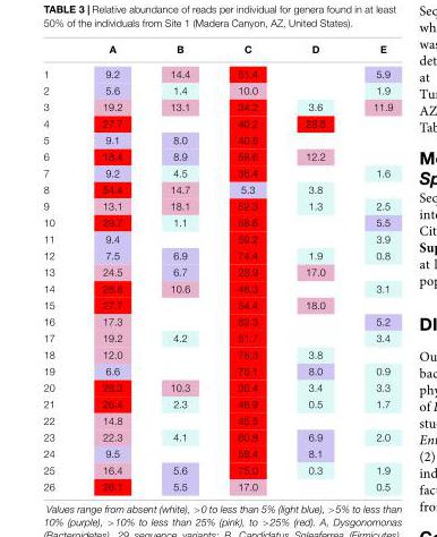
<table><thead><tr><td></td><td>A</td><td>B</td><td>C</td><td>D</td><td>E</td></tr></thead><tbody><tr><td>1</td><td>9.2</td><td>14.4</td><td>51.4</td><td></td><td>5.9</td></tr><tr><td>2</td><td>5.6</td><td>1.4</td><td>10.0</td><td></td><td>1.9</td></tr><tr><td>3</td><td>19.2</td><td>13.1</td><td>34.2</td><td>3.6</td><td>11.9</td></tr><tr><td>4</td><td>27.7</td><td></td><td>40.2</td><td>28.8</td><td></td></tr><tr><td>5</td><td>9.1</td><td>8.0</td><td>40.5</td><td></td><td></td></tr><tr><td>6</td><td>18.4</td><td>8.9</td><td>58.6</td><td>12.2</td><td></td></tr><tr><td>7</td><td>9.2</td><td>4.5</td><td>36.4</td><td></td><td>1.6</td></tr><tr><td>8</td><td>54.4</td><td>14.7</td><td>5.3</td><td>3.8</td><td></td></tr><tr><td>9</td><td>13.1</td><td>18.1</td><td>52.3</td><td>1.3</td><td>2.5</td></tr><tr><td>10</td><td>29.7</td><td>1.1</td><td>58.6</td><td></td><td>5.5</td></tr><tr><td>11</td><td>9.4</td><td></td><td>59.2</td><td></td><td>3.9</td></tr><tr><td>12</td><td>7.5</td><td>6.9</td><td>74.4</td><td>1.9</td><td>0.8</td></tr><tr><td>13</td><td>24.5</td><td>6.7</td><td>28.9</td><td>17.0</td><td></td></tr><tr><td>14</td><td>28.8</td><td>10.6</td><td>46.3</td><td></td><td>3.1</td></tr><tr><td>15</td><td>27.7</td><td></td><td>54.4</td><td>18.0</td><td></td></tr><tr><td>16</td><td>17.3</td><td></td><td>63.3</td><td></td><td>5.2</td></tr><tr><td>17</td><td>19.2</td><td>4.2</td><td>51.7</td><td></td><td>3.4</td></tr><tr><td>18</td><td>12.0</td><td></td><td>78.3</td><td>3.8</td><td></td></tr><tr><td>19</td><td>6.6</td><td></td><td>76.1</td><td>8.0</td><td>0.9</td></tr><tr><td>20</td><td>28.3</td><td>10.3</td><td>36.4</td><td>3.4</td><td>3.3</td></tr><tr><td>21</td><td>26.4</td><td>2.3</td><td>46.9</td><td>0.5</td><td>1.7</td></tr><tr><td>22</td><td>14.8</td><td></td><td>45.5</td><td></td><td></td></tr><tr><td>23</td><td>22.3</td><td>4.1</td><td>60.8</td><td>6.9</td><td>2.0</td></tr><tr><td>24</td><td>9.5</td><td></td><td>58.4</td><td>8.1</td><td></td></tr><tr><td>25</td><td>16.4</td><td>5.6</td><td>75.0</td><td>0.3</td><td>1.9</td></tr><tr><td>26</td><td>26.1</td><td>5.5</td><td>17.0</td><td></td><td>0.5</td></tr></tbody></table>